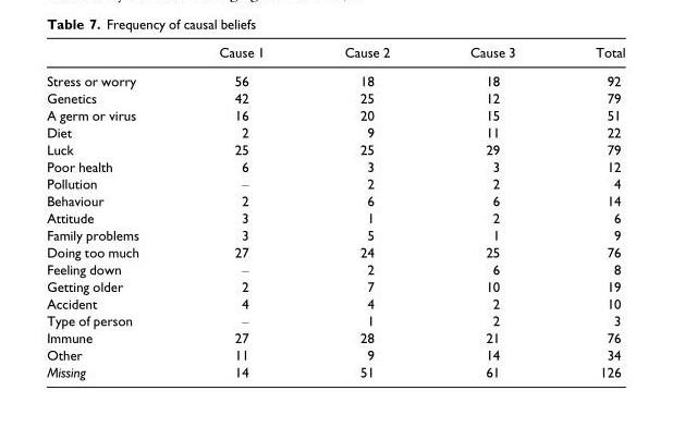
<table><thead><tr><td></td><td>Cause 1</td><td>Cause 2</td><td>Cause 3</td><td>Total</td></tr></thead><tbody><tr><td>Stress or worry</td><td>56</td><td>18</td><td>18</td><td>92</td></tr><tr><td>Genetics</td><td>42</td><td>25</td><td>12</td><td>79</td></tr><tr><td>A germ or virus</td><td>16</td><td>20</td><td>15</td><td>51</td></tr><tr><td>Diet</td><td>2</td><td>9</td><td>11</td><td>22</td></tr><tr><td>Luck</td><td>25</td><td>25</td><td>29</td><td>79</td></tr><tr><td>Poor health</td><td>6</td><td>3</td><td>3</td><td>12</td></tr><tr><td>Pollution</td><td>–</td><td>2</td><td>2</td><td>4</td></tr><tr><td>Behaviour</td><td>2</td><td>6</td><td>6</td><td>14</td></tr><tr><td>Attitude</td><td>3</td><td>1</td><td>2</td><td>6</td></tr><tr><td>Family problems</td><td>3</td><td>5</td><td>1</td><td>9</td></tr><tr><td>Doing too much</td><td>27</td><td>24</td><td>25</td><td>76</td></tr><tr><td>Feeling down</td><td>–</td><td>2</td><td>6</td><td>8</td></tr><tr><td>Getting older</td><td>2</td><td>7</td><td>10</td><td>19</td></tr><tr><td>Accident</td><td>4</td><td>4</td><td>2</td><td>10</td></tr><tr><td>Type of person</td><td>–</td><td>1</td><td>2</td><td>3</td></tr><tr><td>Immune</td><td>27</td><td>28</td><td>21</td><td>76</td></tr><tr><td>Other</td><td>11</td><td>9</td><td>14</td><td>34</td></tr><tr><td>Missing</td><td>14</td><td>51</td><td>61</td><td>126</td></tr></tbody></table>